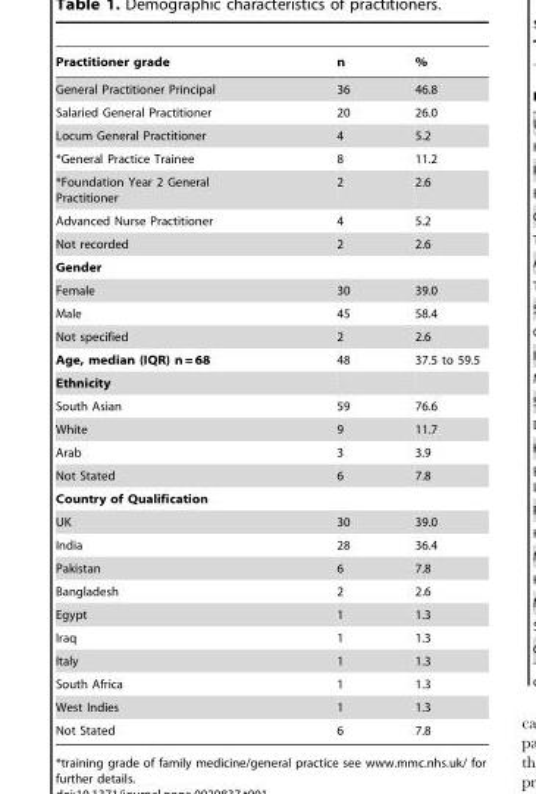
<table><thead><tr><td>Practitioner grade</td><td>n</td><td>%</td></tr></thead><tbody><tr><td>General Practitioner Principal</td><td>36</td><td>46.8</td></tr><tr><td>Salaried General Practitioner</td><td>20</td><td>26.0</td></tr><tr><td>Locum General Practitioner</td><td>4</td><td>5.2</td></tr><tr><td>*General Practice Trainee</td><td>8</td><td>11.2</td></tr><tr><td>*Foundation Year 2 General Practitioner</td><td>2</td><td>2.6</td></tr><tr><td>Advanced Nurse Practitioner</td><td>4</td><td>5.2</td></tr><tr><td>Not recorded</td><td>2</td><td>2.6</td></tr><tr><td colspan="3">Gender</td></tr><tr><td>Female</td><td>30</td><td>39.0</td></tr><tr><td>Male</td><td>45</td><td>58.4</td></tr><tr><td>Not specified</td><td>2</td><td>2.6</td></tr><tr><td>Age, median (IQR) n = 68</td><td>48</td><td>37.5 to 59.5</td></tr><tr><td colspan="3">Ethnicity</td></tr><tr><td>South Asian</td><td>59</td><td>76.6</td></tr><tr><td>White</td><td>9</td><td>11.7</td></tr><tr><td>Arab</td><td>3</td><td>3.9</td></tr><tr><td>Not Stated</td><td>6</td><td>7.8</td></tr><tr><td colspan="3">Country of Qualification</td></tr><tr><td>UK</td><td>30</td><td>39.0</td></tr><tr><td>India</td><td>28</td><td>36.4</td></tr><tr><td>Pakistan</td><td>6</td><td>7.8</td></tr><tr><td>Bangladesh</td><td>2</td><td>2.6</td></tr><tr><td>Egypt</td><td>1</td><td>1.3</td></tr><tr><td>Iraq</td><td>1</td><td>1.3</td></tr><tr><td>Italy</td><td>1</td><td>1.3</td></tr><tr><td>South Africa</td><td>1</td><td>1.3</td></tr><tr><td>West Indies</td><td>1</td><td>1.3</td></tr><tr><td>Not Stated</td><td>6</td><td>7.8</td></tr></tbody></table>